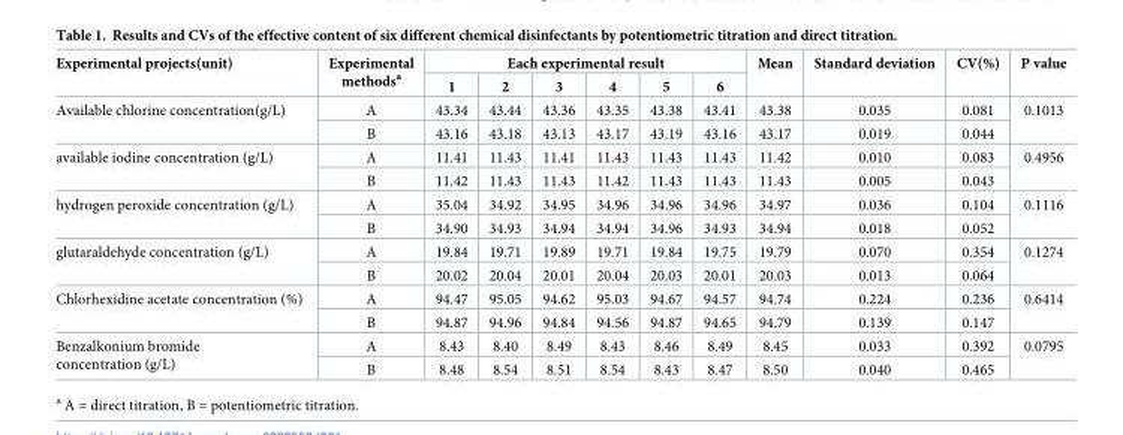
<table><thead><tr><td rowspan="2">Experimental projects(unit)</td><td rowspan="2">Experimental methods<sup>a</sup></td><td colspan="6">Each experimental result</td><td rowspan="2">Mean</td><td rowspan="2">Standard deviation</td><td rowspan="2">CV(%)</td><td rowspan="2">P value</td></tr><tr><td>1</td><td>2</td><td>3</td><td>4</td><td>5</td><td>6</td></tr></thead><tbody><tr><td rowspan="2">Available chlorine concentration(g/L)</td><td>A</td><td>43.34</td><td>43.44</td><td>43.36</td><td>43.35</td><td>43.38</td><td>43.41</td><td>43.38</td><td>0.035</td><td>0.081</td><td rowspan="2">0.1013</td></tr><tr><td>B</td><td>43.16</td><td>43.18</td><td>43.13</td><td>43.17</td><td>43.19</td><td>43.16</td><td>43.17</td><td>0.019</td><td>0.044</td></tr><tr><td rowspan="2">available iodine concentration (g/L)</td><td>A</td><td>11.41</td><td>11.43</td><td>11.41</td><td>11.43</td><td>11.43</td><td>11.43</td><td>11.42</td><td>0.010</td><td>0.083</td><td rowspan="2">0.4956</td></tr><tr><td>B</td><td>11.42</td><td>11.43</td><td>11.43</td><td>11.42</td><td>11.43</td><td>11.43</td><td>11.43</td><td>0.005</td><td>0.043</td></tr><tr><td rowspan="2">hydrogen peroxide concentration (g/L)</td><td>A</td><td>35.04</td><td>34.92</td><td>34.95</td><td>34.96</td><td>34.96</td><td>34.96</td><td>34.97</td><td>0.036</td><td>0.104</td><td rowspan="2">0.1116</td></tr><tr><td>B</td><td>34.90</td><td>34.93</td><td>34.94</td><td>34.94</td><td>34.96</td><td>34.93</td><td>34.94</td><td>0.018</td><td>0.052</td></tr><tr><td rowspan="2">glutaraldehyde concentration (g/L)</td><td>A</td><td>19.84</td><td>19.71</td><td>19.89</td><td>19.71</td><td>19.84</td><td>19.75</td><td>19.79</td><td>0.070</td><td>0.354</td><td rowspan="2">0.1274</td></tr><tr><td>B</td><td>20.02</td><td>20.04</td><td>20.01</td><td>20.04</td><td>20.03</td><td>20.01</td><td>20.03</td><td>0.013</td><td>0.064</td></tr><tr><td rowspan="2">Chlorhexidine acetate concentration (%)</td><td>A</td><td>94.47</td><td>95.05</td><td>94.62</td><td>95.03</td><td>94.67</td><td>94.57</td><td>94.74</td><td>0.224</td><td>0.236</td><td rowspan="2">0.6414</td></tr><tr><td>B</td><td>94.87</td><td>94.96</td><td>94.84</td><td>94.56</td><td>94.87</td><td>94.65</td><td>94.79</td><td>0.139</td><td>0.147</td></tr><tr><td rowspan="2">Benzalkonium bromide concentration (g/L)</td><td>A</td><td>8.43</td><td>8.40</td><td>8.49</td><td>8.43</td><td>8.46</td><td>8.49</td><td>8.45</td><td>0.033</td><td>0.392</td><td rowspan="2">0.0795</td></tr><tr><td>B</td><td>8.48</td><td>8.54</td><td>8.51</td><td>8.54</td><td>8.43</td><td>8.47</td><td>8.50</td><td>0.040</td><td>0.465</td></tr></tbody></table>